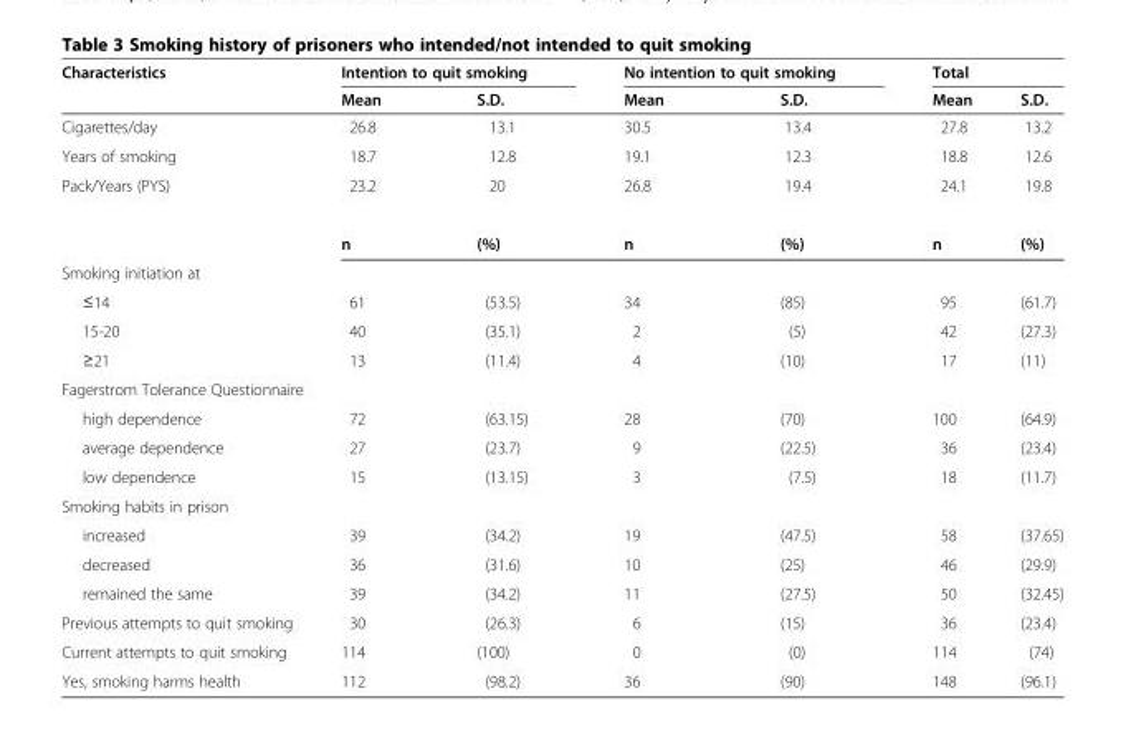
<table><thead><tr><td rowspan="2">Characteristics</td><td colspan="2">Intention to quit smoking</td><td colspan="2">No intention to quit smoking</td><td colspan="2">Total</td></tr><tr><td>Mean</td><td>S.D.</td><td>Mean</td><td>S.D.</td><td>Mean</td><td>S.D.</td></tr></thead><tbody><tr><td>Cigarettes/day</td><td>26.8</td><td>13.1</td><td>30.5</td><td>13.4</td><td>27.8</td><td>13.2</td></tr><tr><td>Years of smoking</td><td>18.7</td><td>12.8</td><td>19.1</td><td>12.3</td><td>18.8</td><td>12.6</td></tr><tr><td rowspan="2">Pack/Years (PYS)</td><td>23.2</td><td>20</td><td>26.8</td><td>19.4</td><td>24.1</td><td>19.8</td></tr><tr><td>n</td><td>(%)</td><td>n</td><td>(%)</td><td>n</td><td>(%)</td></tr><tr><td colspan="7">Smoking initiation at</td></tr><tr><td>≤14</td><td>61</td><td>(53.5)</td><td>34</td><td>(85)</td><td>95</td><td>(61.7)</td></tr><tr><td>15-20</td><td>40</td><td>(35.1)</td><td>2</td><td>(5)</td><td>42</td><td>(27.3)</td></tr><tr><td>≥21</td><td>13</td><td>(11.4)</td><td>4</td><td>(10)</td><td>17</td><td>(11)</td></tr><tr><td colspan="7">Fagerstrom Tolerance Questionnaire</td></tr><tr><td>high dependence</td><td>72</td><td>(63.15)</td><td>28</td><td>(70)</td><td>100</td><td>(64.9)</td></tr><tr><td>average dependence</td><td>27</td><td>(23.7)</td><td>9</td><td>(22.5)</td><td>36</td><td>(23.4)</td></tr><tr><td>low dependence</td><td>15</td><td>(13.15)</td><td>3</td><td>(7.5)</td><td>18</td><td>(11.7)</td></tr><tr><td colspan="7">Smoking habits in prison</td></tr><tr><td>increased</td><td>39</td><td>(34.2)</td><td>19</td><td>(47.5)</td><td>58</td><td>(37.65)</td></tr><tr><td>decreased</td><td>36</td><td>(31.6)</td><td>10</td><td>(25)</td><td>46</td><td>(29.9)</td></tr><tr><td>remained the same</td><td>39</td><td>(34.2)</td><td>11</td><td>(27.5)</td><td>50</td><td>(32.45)</td></tr><tr><td>Previous attempts to quit smoking</td><td>30</td><td>(26.3)</td><td>6</td><td>(15)</td><td>36</td><td>(23.4)</td></tr><tr><td>Current attempts to quit smoking</td><td>114</td><td>(100)</td><td>0</td><td>(0)</td><td>114</td><td>(74)</td></tr><tr><td>Yes, smoking harms health</td><td>112</td><td>(98.2)</td><td>36</td><td>(90)</td><td>148</td><td>(96.1)</td></tr></tbody></table>